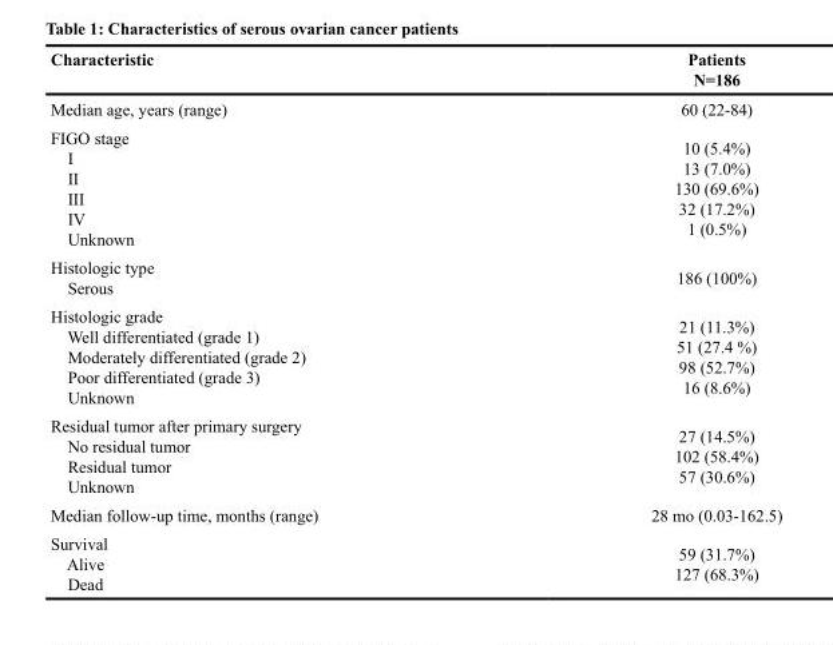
<table><thead><tr><td>Characteristic</td><td>Patients N=186</td></tr></thead><tbody><tr><td>Median age, years (range)</td><td>60 (22-84)</td></tr><tr><td>FIGO stage I II III IV Unknown</td><td>10 (5.4%) 13 (7.0%) 130 (69.6%) 32 (17.2%) 1 (0.5%)</td></tr><tr><td>Histologic type Serous</td><td>186 (100%)</td></tr><tr><td>Histologic grade Well differentiated (grade 1) Moderately differentiated (grade 2) Poor differentiated (grade 3) Unknown</td><td>21 (11.3%) 51 (27.4 %) 98 (52.7%) 16 (8.6%)</td></tr><tr><td>Residual tumor after primary surgery No residual tumor Residual tumor Unknown</td><td>27 (14.5%) 102 (58.4%) 57 (30.6%)</td></tr><tr><td>Median follow-up time, months (range)</td><td>28 mo (0.03-162.5)</td></tr><tr><td>Survival Alive Dead</td><td>59 (31.7%) 127 (68.3%)</td></tr></tbody></table>